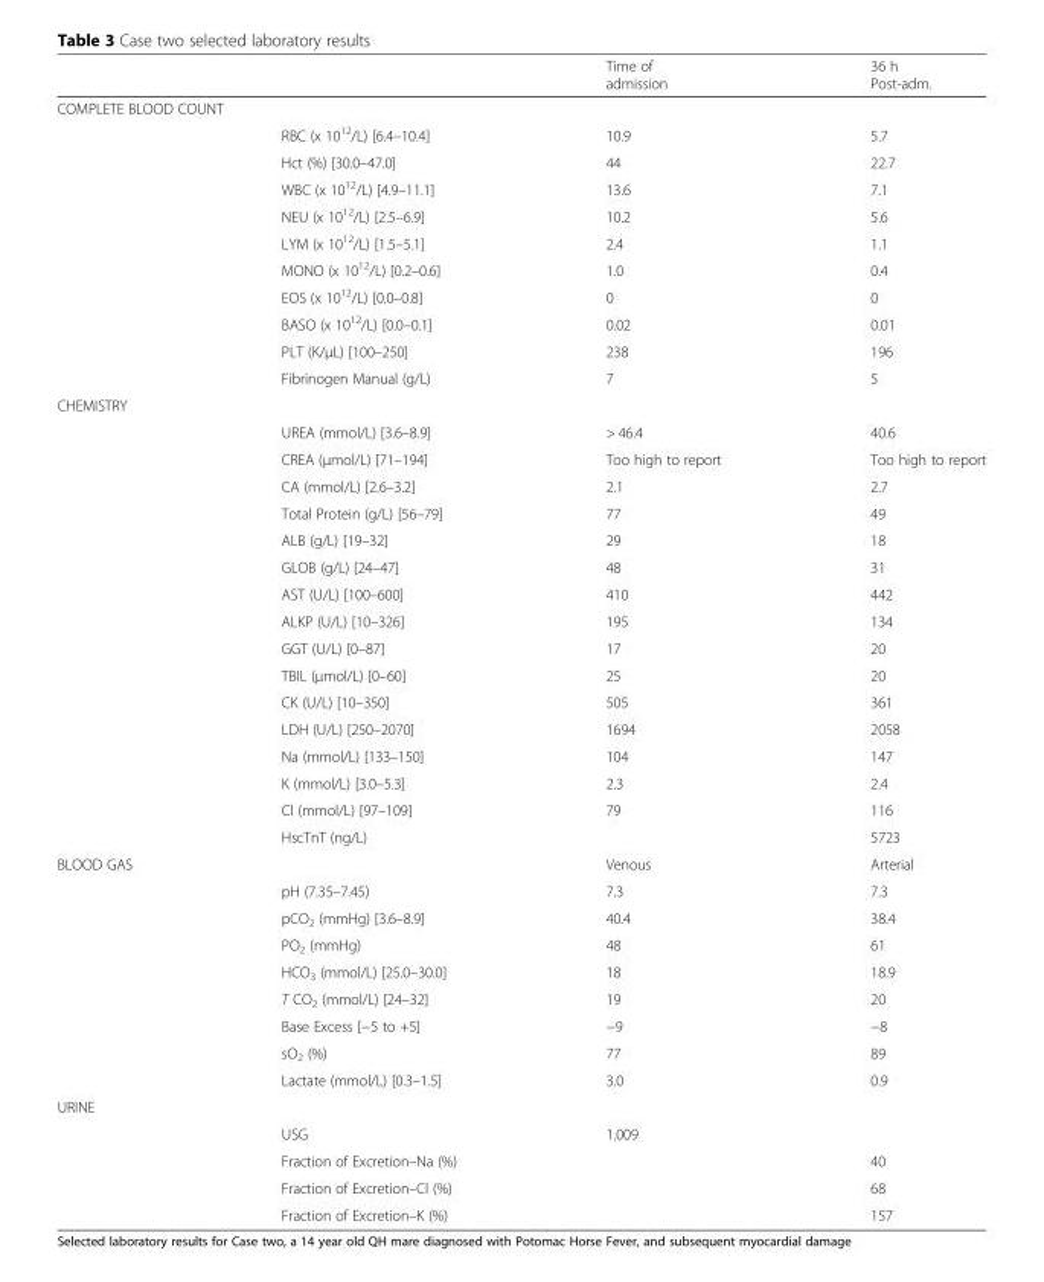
<table><thead><tr><td></td><td></td><td>Time of admission</td><td>36 h Post-adm.</td></tr></thead><tbody><tr><td colspan="4">COMPLETE BLOOD COUNT</td></tr><tr><td rowspan="10"></td><td>RBC (x 10<sup>12</sup>/L) [6.4–10.4]</td><td>10.9</td><td>5.7</td></tr><tr><td>Hct (%) [30.0–47.0]</td><td>44</td><td>22.7</td></tr><tr><td>WBC (x 10<sup>12</sup>/L) [4.9–11.1]</td><td>13.6</td><td>7.1</td></tr><tr><td>NEU (x 10<sup>12</sup>/L) [2.5–6.9]</td><td>10.2</td><td>5.6</td></tr><tr><td>LYM (x 10<sup>12</sup>/L) [1.5–5.1]</td><td>2.4</td><td>1.1</td></tr><tr><td>MONO (x 10<sup>12</sup>/L) [0.2–0.6]</td><td>1.0</td><td>0.4</td></tr><tr><td>EOS (x 10<sup>12</sup>/L) [0.0–0.8]</td><td>0</td><td>0</td></tr><tr><td>BASO (x 10<sup>12</sup>/L) [0.0–0.1]</td><td>0.02</td><td>0.01</td></tr><tr><td>PLT (K/μL) [100–250]</td><td>238</td><td>196</td></tr><tr><td>Fibrinogen Manual (g/L)</td><td>7</td><td>5</td></tr><tr><td colspan="4">CHEMISTRY</td></tr><tr><td rowspan="16"></td><td>UREA (mmol/L) [3.6–8.9]</td><td>&gt; 46.4</td><td>40.6</td></tr><tr><td>CREA (μmol/L) [71–194]</td><td>Too high to report</td><td>Too high to report</td></tr><tr><td>CA (mmol/L) [2.6–3.2]</td><td>2.1</td><td>2.7</td></tr><tr><td>Total Protein (g/L) [56–79]</td><td>77</td><td>49</td></tr><tr><td>ALB (g/L) [19–32]</td><td>29</td><td>18</td></tr><tr><td>GLOB (g/L) [24–47]</td><td>48</td><td>31</td></tr><tr><td>AST (U/L) [100–600]</td><td>410</td><td>442</td></tr><tr><td>ALKP (U/L) [10–326]</td><td>195</td><td>134</td></tr><tr><td>GGT (U/L) [0–87]</td><td>17</td><td>20</td></tr><tr><td>TBIL (μmol/L) [0–60]</td><td>25</td><td>20</td></tr><tr><td>CK (U/L) [10–350]</td><td>505</td><td>361</td></tr><tr><td>LDH (U/L) [250–2070]</td><td>1694</td><td>2058</td></tr><tr><td>Na (mmol/L) [133–150]</td><td>104</td><td>147</td></tr><tr><td>K (mmol/L) [3.0–5.3]</td><td>2.3</td><td>2.4</td></tr><tr><td>Cl (mmol/L) [97–109]</td><td>79</td><td>116</td></tr><tr><td>HscTnT (ng/L)</td><td></td><td>5723</td></tr><tr><td rowspan="9">BLOOD GAS</td><td></td><td>Venous</td><td>Arterial</td></tr><tr><td>pH (7.35–7.45)</td><td>7.3</td><td>7.3</td></tr><tr><td>pCO<sub>2</sub> (mmHg) [3.6–8.9]</td><td>40.4</td><td>38.4</td></tr><tr><td>PO<sub>2</sub> (mmHg)</td><td>48</td><td>61</td></tr><tr><td>HCO<sub>3</sub> (mmol/L) [25.0–30.0]</td><td>18</td><td>18.9</td></tr><tr><td>T CO<sub>2</sub> (mmol/L) [24–32]</td><td>19</td><td>20</td></tr><tr><td>Base Excess [−5 to +5]</td><td>−9</td><td>−8</td></tr><tr><td>sO<sub>2</sub> (%)</td><td>77</td><td>89</td></tr><tr><td>Lactate (mmol/L) [0.3–1.5]</td><td>3.0</td><td>0.9</td></tr><tr><td colspan="4">URINE</td></tr><tr><td rowspan="4"></td><td>USG</td><td>1.009</td><td></td></tr><tr><td>Fraction of Excretion–Na (%)</td><td></td><td>40</td></tr><tr><td>Fraction of Excretion–Cl (%)</td><td></td><td>68</td></tr><tr><td>Fraction of Excretion–K (%)</td><td></td><td>157</td></tr></tbody></table>